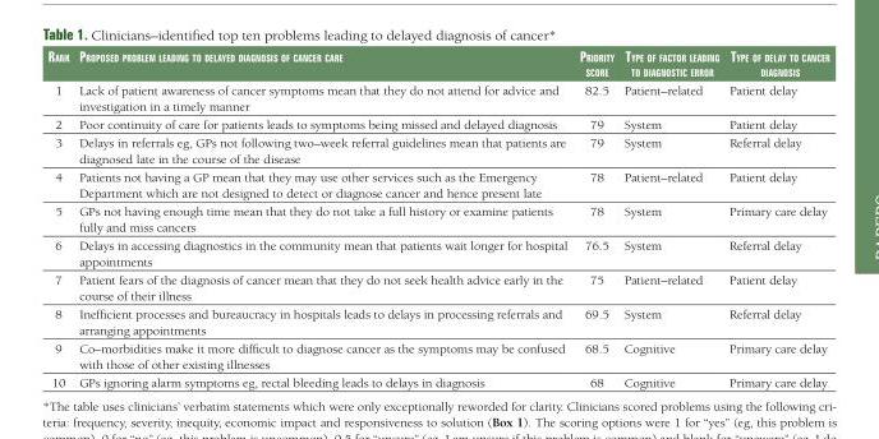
<table><thead><tr><td>Rank</td><td>PRoPosed PRoblem leading to delayed diagnosis of canceR caRe</td><td>PRioRity scoRe</td><td>tyPe of factoR leading to diagnostic eRRoR</td><td>tyPe of delay to canceR diagnosis</td></tr></thead><tbody><tr><td>1</td><td>Lack of patient awareness of cancer symptoms mean that they do not attend for advice and investigation in a timely manner</td><td>82.5</td><td>Patient–related</td><td>Patient delay</td></tr><tr><td>2</td><td>Poor continuity of care for patients leads to symptoms being missed and delayed diagnosis</td><td>79</td><td>System</td><td>Patient delay</td></tr><tr><td>3</td><td>Delays in referrals eg, GPs not following two–week referral guidelines mean that patients are diagnosed late in the course of the disease</td><td>79</td><td>System</td><td>Referral delay</td></tr><tr><td>4</td><td>Patients not having a GP mean that they may use other services such as the Emergency Department which are not designed to detect or diagnose cancer and hence present late</td><td>78</td><td>Patient–related</td><td>Patient delay</td></tr><tr><td>5</td><td>GPs not having enough time mean that they do not take a full history or examine patients fully and miss cancers</td><td>78</td><td>System</td><td>Primary care delay</td></tr><tr><td>6</td><td>Delays in accessing diagnostics in the community mean that patients wait longer for hospital appointments</td><td>76.5</td><td>System</td><td>Referral delay</td></tr><tr><td>7</td><td>Patient fears of the diagnosis of cancer mean that they do not seek health advice early in the course of their illness</td><td>75</td><td>Patient–related</td><td>Patient delay</td></tr><tr><td>8</td><td>Inefficient processes and bureaucracy in hospitals leads to delays in processing referrals and arranging appointments</td><td>69.5</td><td>System</td><td>Referral delay</td></tr><tr><td>9</td><td>Co–morbidities make it more difficult to diagnose cancer as the symptoms may be confused with those of other existing illnesses</td><td>68.5</td><td>Cognitive</td><td>Primary care delay</td></tr><tr><td>10</td><td>GPs ignoring alarm symptoms eg, rectal bleeding leads to delays in diagnosis</td><td>68</td><td>Cognitive</td><td>Primary care delay</td></tr></tbody></table>